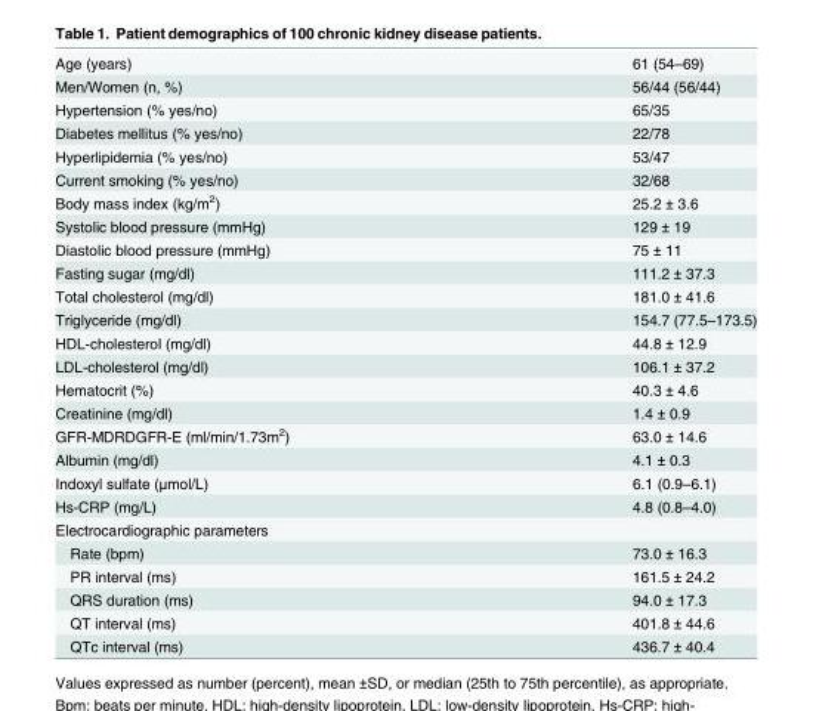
<table><tbody><tr><td>Age (years)</td><td>61 (54–69)</td></tr><tr><td>Men/Women (n, %)</td><td>56/44 (56/44)</td></tr><tr><td>Hypertension (% yes/no)</td><td>65/35</td></tr><tr><td>Diabetes mellitus (% yes/no)</td><td>22/78</td></tr><tr><td>Hyperlipidemia (% yes/no)</td><td>53/47</td></tr><tr><td>Current smoking (% yes/no)</td><td>32/68</td></tr><tr><td>Body mass index (kg/m<sup>2</sup>)</td><td>25.2 ± 3.6</td></tr><tr><td>Systolic blood pressure (mmHg)</td><td>129 ± 19</td></tr><tr><td>Diastolic blood pressure (mmHg)</td><td>75 ± 11</td></tr><tr><td>Fasting sugar (mg/dl)</td><td>111.2 ± 37.3</td></tr><tr><td>Total cholesterol (mg/dl)</td><td>181.0 ± 41.6</td></tr><tr><td>Triglyceride (mg/dl)</td><td>154.7 (77.5–173.5)</td></tr><tr><td>HDL-cholesterol (mg/dl)</td><td>44.8 ± 12.9</td></tr><tr><td>LDL-cholesterol (mg/dl)</td><td>106.1 ± 37.2</td></tr><tr><td>Hematocrit (%)</td><td>40.3 ± 4.6</td></tr><tr><td>Creatinine (mg/dl)</td><td>1.4 ± 0.9</td></tr><tr><td>GFR-MDRDGFR-E (ml/min/1.73m<sup>2</sup>)</td><td>63.0 ± 14.6</td></tr><tr><td>Albumin (mg/dl)</td><td>4.1 ± 0.3</td></tr><tr><td>Indoxyl sulfate (μmol/L)</td><td>6.1 (0.9–6.1)</td></tr><tr><td>Hs-CRP (mg/L)</td><td>4.8 (0.8–4.0)</td></tr><tr><td colspan="2">Electrocardiographic parameters</td></tr><tr><td>Rate (bpm)</td><td>73.0 ± 16.3</td></tr><tr><td>PR interval (ms)</td><td>161.5 ± 24.2</td></tr><tr><td>QRS duration (ms)</td><td>94.0 ± 17.3</td></tr><tr><td>QT interval (ms)</td><td>401.8 ± 44.6</td></tr><tr><td>QTc interval (ms)</td><td>436.7 ± 40.4</td></tr></tbody></table>